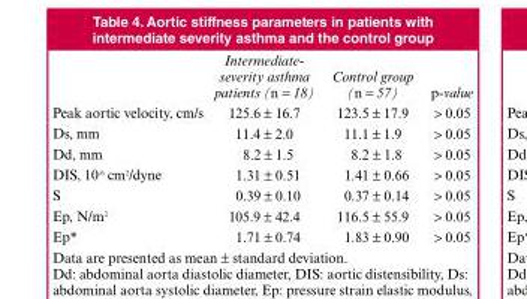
<table><thead><tr><td></td><td>Intermediate- severity asthma patients (n = 18)</td><td>Control group (n = 57)</td><td>p-value</td></tr></thead><tbody><tr><td>Peak aortic velocity, cm/s</td><td>125.6 ± 16.7</td><td>123.5 ± 17.9</td><td>&gt; 0.05</td></tr><tr><td>Ds, mm</td><td>11.4 ± 2.0</td><td>11.1 ± 1.9</td><td>&gt; 0.05</td></tr><tr><td>Dd, mm</td><td>8.2 ± 1.5</td><td>8.2 ± 1.8</td><td>&gt; 0.05</td></tr><tr><td>DIS, 10<sup>-6</sup> cm<sup>2</sup>/dyne</td><td>1.31 ± 0.51</td><td>1.41 ± 0.66</td><td>&gt; 0.05</td></tr><tr><td>S</td><td>0.39 ± 0.10</td><td>0.37 ± 0.14</td><td>&gt; 0.05</td></tr><tr><td>Ep, N/m<sup>2</sup></td><td>105.9 ± 42.4</td><td>116.5 ± 55.9</td><td>&gt; 0.05</td></tr><tr><td>Ep*</td><td>1.71 ± 0.74</td><td>1.83 ± 0.90</td><td>&gt; 0.05</td></tr></tbody></table>